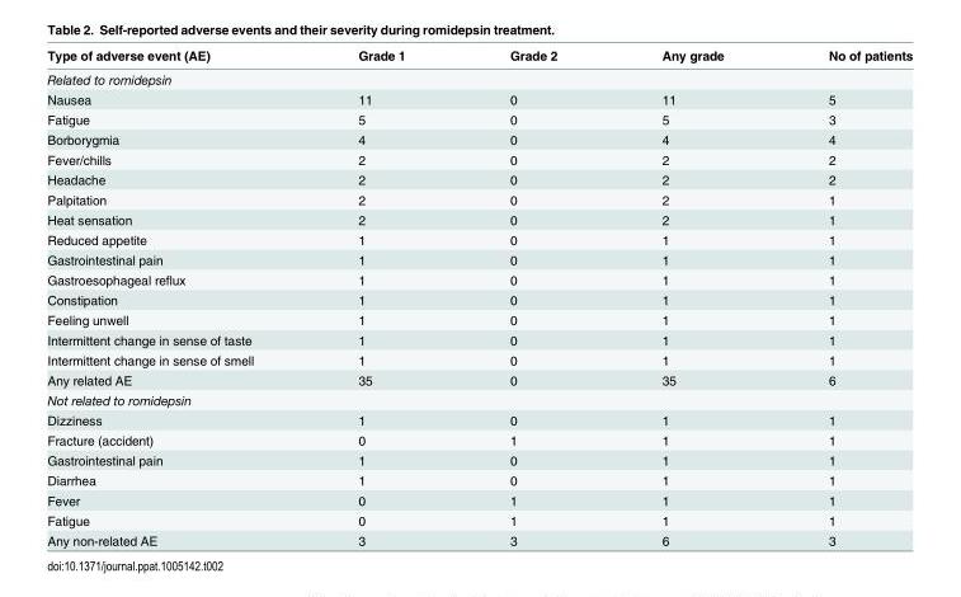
<table><thead><tr><td>Type of adverse event (AE)</td><td>Grade 1</td><td>Grade 2</td><td>Any grade</td><td>No of patients</td></tr></thead><tbody><tr><td colspan="5">Related to romidepsin</td></tr><tr><td>Nausea</td><td>11</td><td>0</td><td>11</td><td>5</td></tr><tr><td>Fatigue</td><td>5</td><td>0</td><td>5</td><td>3</td></tr><tr><td>Borborygmia</td><td>4</td><td>0</td><td>4</td><td>4</td></tr><tr><td>Fever/chills</td><td>2</td><td>0</td><td>2</td><td>2</td></tr><tr><td>Headache</td><td>2</td><td>0</td><td>2</td><td>2</td></tr><tr><td>Palpitation</td><td>2</td><td>0</td><td>2</td><td>1</td></tr><tr><td>Heat sensation</td><td>2</td><td>0</td><td>2</td><td>1</td></tr><tr><td>Reduced appetite</td><td>1</td><td>0</td><td>1</td><td>1</td></tr><tr><td>Gastrointestinal pain</td><td>1</td><td>0</td><td>1</td><td>1</td></tr><tr><td>Gastroesophageal reflux</td><td>1</td><td>0</td><td>1</td><td>1</td></tr><tr><td>Constipation</td><td>1</td><td>0</td><td>1</td><td>1</td></tr><tr><td>Feeling unwell</td><td>1</td><td>0</td><td>1</td><td>1</td></tr><tr><td>Intermittent change in sense of taste</td><td>1</td><td>0</td><td>1</td><td>1</td></tr><tr><td>Intermittent change in sense of smell</td><td>1</td><td>0</td><td>1</td><td>1</td></tr><tr><td>Any related AE</td><td>35</td><td>0</td><td>35</td><td>6</td></tr><tr><td colspan="5">Not related to romidepsin</td></tr><tr><td>Dizziness</td><td>1</td><td>0</td><td>1</td><td>1</td></tr><tr><td>Fracture (accident)</td><td>0</td><td>1</td><td>1</td><td>1</td></tr><tr><td>Gastrointestinal pain</td><td>1</td><td>0</td><td>1</td><td>1</td></tr><tr><td>Diarrhea</td><td>1</td><td>0</td><td>1</td><td>1</td></tr><tr><td>Fever</td><td>0</td><td>1</td><td>1</td><td>1</td></tr><tr><td>Fatigue</td><td>0</td><td>1</td><td>1</td><td>1</td></tr><tr><td>Any non-related AE</td><td>3</td><td>3</td><td>6</td><td>3</td></tr></tbody></table>